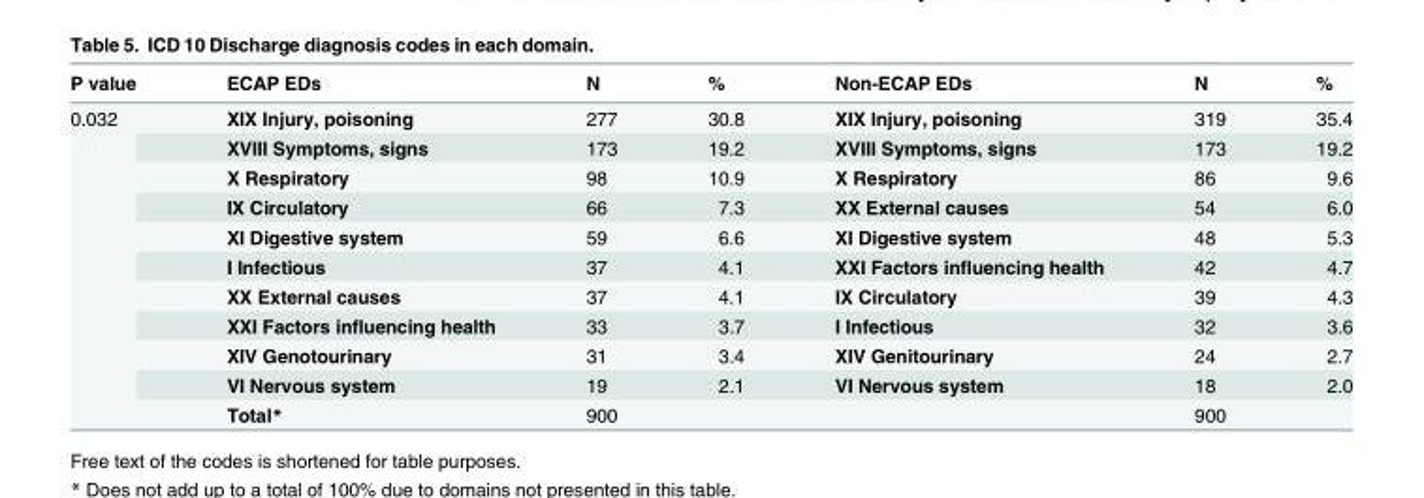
<table><thead><tr><td>P value</td><td>ECAP EDs</td><td>N</td><td>%</td><td>Non-ECAP EDs</td><td>N</td><td>%</td></tr></thead><tbody><tr><td rowspan="11">0.032</td><td>XIX Injury, poisoning</td><td>277</td><td>30.8</td><td>XIX Injury, poisoning</td><td>319</td><td>35.4</td></tr><tr><td>XVIII Symptoms, signs</td><td>173</td><td>19.2</td><td>XVIII Symptoms, signs</td><td>173</td><td>19.2</td></tr><tr><td>X Respiratory</td><td>98</td><td>10.9</td><td>X Respiratory</td><td>86</td><td>9.6</td></tr><tr><td>IX Circulatory</td><td>66</td><td>7.3</td><td>XX External causes</td><td>54</td><td>6.0</td></tr><tr><td>XI Digestive system</td><td>59</td><td>6.6</td><td>XI Digestive system</td><td>48</td><td>5.3</td></tr><tr><td>I Infectious</td><td>37</td><td>4.1</td><td>XXI Factors influencing health</td><td>42</td><td>4.7</td></tr><tr><td>XX External causes</td><td>37</td><td>4.1</td><td>IX Circulatory</td><td>39</td><td>4.3</td></tr><tr><td>XXI Factors influencing health</td><td>33</td><td>3.7</td><td>I Infectious</td><td>32</td><td>3.6</td></tr><tr><td>XIV Genotourinary</td><td>31</td><td>3.4</td><td>XIV Genitourinary</td><td>24</td><td>2.7</td></tr><tr><td>VI Nervous system</td><td>19</td><td>2.1</td><td>VI Nervous system</td><td>18</td><td>2.0</td></tr><tr><td>Total*</td><td>900</td><td></td><td></td><td>900</td><td></td></tr></tbody></table>